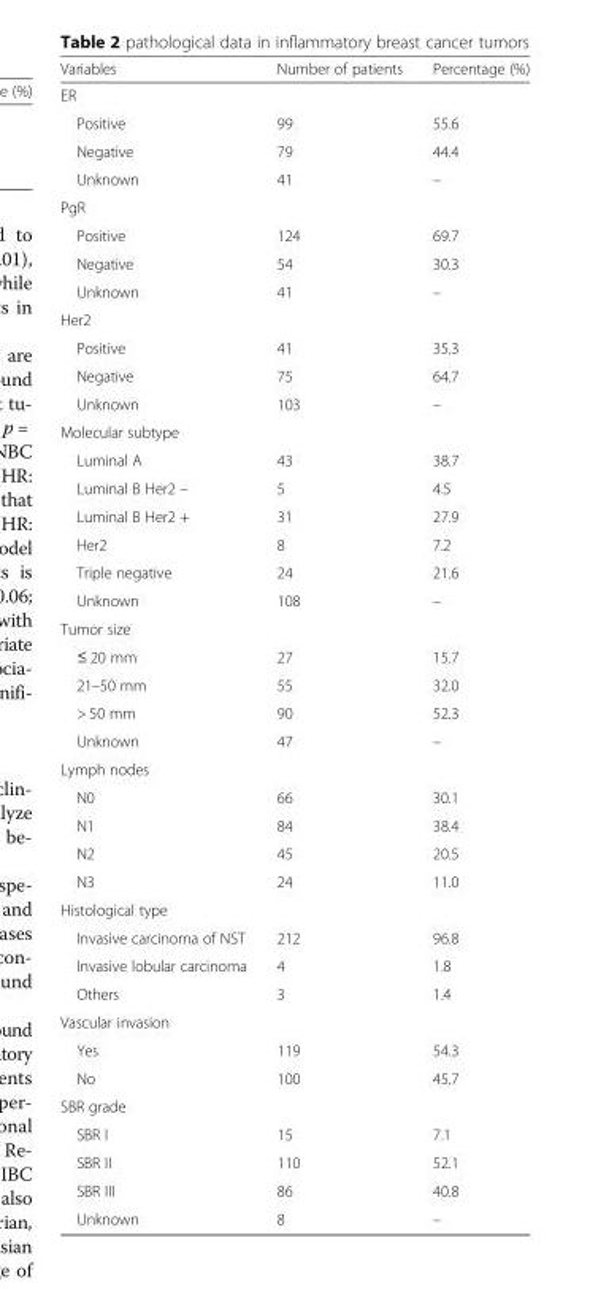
<table><thead><tr><td>Variables</td><td>Number of patients</td><td>Percentage (%)</td></tr></thead><tbody><tr><td colspan="3">ER</td></tr><tr><td>Positive</td><td>99</td><td>55.6</td></tr><tr><td>Negative</td><td>79</td><td>44.4</td></tr><tr><td>Unknown</td><td>41</td><td>–</td></tr><tr><td colspan="3">PgR</td></tr><tr><td>Positive</td><td>124</td><td>69.7</td></tr><tr><td>Negative</td><td>54</td><td>30.3</td></tr><tr><td>Unknown</td><td>41</td><td>–</td></tr><tr><td colspan="3">Her2</td></tr><tr><td>Positive</td><td>41</td><td>35.3</td></tr><tr><td>Negative</td><td>75</td><td>64.7</td></tr><tr><td>Unknown</td><td>103</td><td>–</td></tr><tr><td colspan="3">Molecular subtype</td></tr><tr><td>Luminal A</td><td>43</td><td>38.7</td></tr><tr><td>Luminal B Her2 –</td><td>5</td><td>4.5</td></tr><tr><td>Luminal B Her2 +</td><td>31</td><td>27.9</td></tr><tr><td>Her2</td><td>8</td><td>7.2</td></tr><tr><td>Triple negative</td><td>24</td><td>21.6</td></tr><tr><td>Unknown</td><td>108</td><td>–</td></tr><tr><td colspan="3">Tumor size</td></tr><tr><td>≤ 20 mm</td><td>27</td><td>15.7</td></tr><tr><td>21–50 mm</td><td>55</td><td>32.0</td></tr><tr><td>&gt; 50 mm</td><td>90</td><td>52.3</td></tr><tr><td>Unknown</td><td>47</td><td>–</td></tr><tr><td colspan="3">Lymph nodes</td></tr><tr><td>N0</td><td>66</td><td>30.1</td></tr><tr><td>N1</td><td>84</td><td>38.4</td></tr><tr><td>N2</td><td>45</td><td>20.5</td></tr><tr><td>N3</td><td>24</td><td>11.0</td></tr><tr><td colspan="3">Histological type</td></tr><tr><td>Invasive carcinoma of NST</td><td>212</td><td>96.8</td></tr><tr><td>Invasive lobular carcinoma</td><td>4</td><td>1.8</td></tr><tr><td>Others</td><td>3</td><td>1.4</td></tr><tr><td colspan="3">Vascular invasion</td></tr><tr><td>Yes</td><td>119</td><td>54.3</td></tr><tr><td>No</td><td>100</td><td>45.7</td></tr><tr><td colspan="3">SBR grade</td></tr><tr><td>SBR I</td><td>15</td><td>7.1</td></tr><tr><td>SBR II</td><td>110</td><td>52.1</td></tr><tr><td>SBR III</td><td>86</td><td>40.8</td></tr><tr><td>Unknown</td><td>8</td><td>–</td></tr></tbody></table>